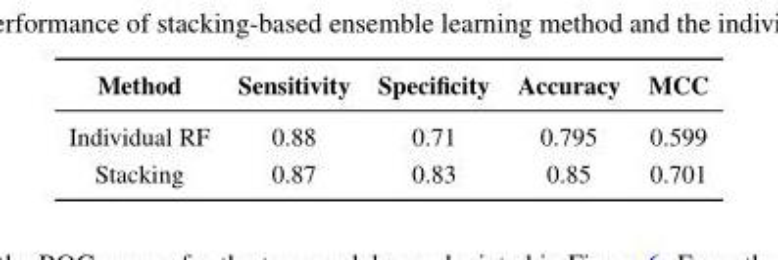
<table><thead><tr><td>Method</td><td>Sensitivity</td><td>Specificity</td><td>Accuracy</td><td>MCC</td></tr></thead><tbody><tr><td>Individual RF</td><td>0.88</td><td>0.71</td><td>0.795</td><td>0.599</td></tr><tr><td>Stacking</td><td>0.87</td><td>0.83</td><td>0.85</td><td>0.701</td></tr></tbody></table>